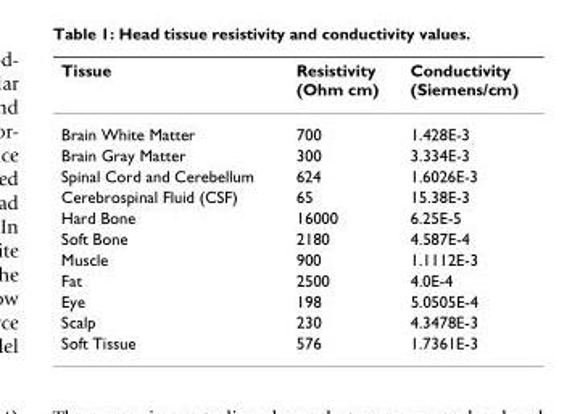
<table><thead><tr><td>Tissue</td><td>Resistivity (Ohm cm)</td><td>Conductivity (Siemens/cm)</td></tr></thead><tbody><tr><td>Brain White Matter</td><td>700</td><td>1.428E-3</td></tr><tr><td>Brain Gray Matter</td><td>300</td><td>3.334E-3</td></tr><tr><td>Spinal Cord and Cerebellum</td><td>624</td><td>1.6026E-3</td></tr><tr><td>Cerebrospinal Fluid (CSF)</td><td>65</td><td>15.38E-3</td></tr><tr><td>Hard Bone</td><td>16000</td><td>6.25E-5</td></tr><tr><td>Soft Bone</td><td>2180</td><td>4.587E-4</td></tr><tr><td>Muscle</td><td>900</td><td>1.1112E-3</td></tr><tr><td>Fat</td><td>2500</td><td>4.0E-4</td></tr><tr><td>Eye</td><td>198</td><td>5.0505E-4</td></tr><tr><td>Scalp</td><td>230</td><td>4.3478E-3</td></tr><tr><td>Soft Tissue</td><td>576</td><td>1.7361E-3</td></tr></tbody></table>